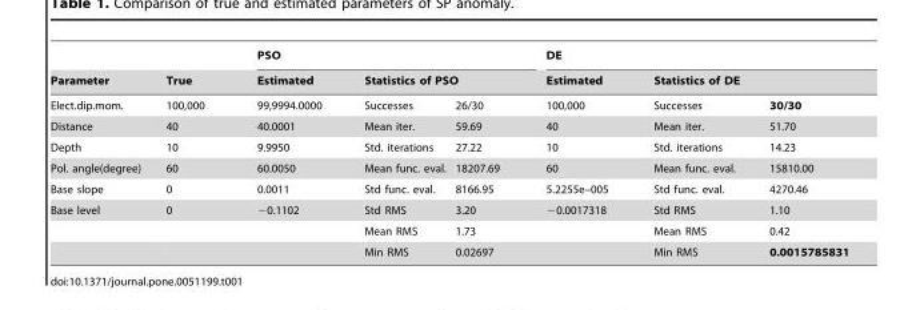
<table><thead><tr><td rowspan="3">Parameter Elect.dip.mom.</td><td rowspan="3">True 100,000</td><td colspan="3">PSO</td><td colspan="3">DE</td></tr><tr><td rowspan="2">Estimated 99,9994.0000</td><td colspan="2">Statistics of PSO</td><td rowspan="2">Estimated 100,000</td><td colspan="2">Statistics of DE</td></tr><tr><td>Successes</td><td>26/30</td><td>Successes</td><td>30/30</td></tr></thead><tbody><tr><td>Distance</td><td>40</td><td>40.0001</td><td>Mean iter.</td><td>59.69</td><td>40</td><td>Mean iter.</td><td>51.70</td></tr><tr><td>Depth</td><td>10</td><td>9.9950</td><td>Std. iterations</td><td>27.22</td><td>10</td><td>Std. iterations</td><td>14.23</td></tr><tr><td>Pol. angle(degree)</td><td>60</td><td>60.0050</td><td>Mean func. eval.</td><td>18207.69</td><td>60</td><td>Mean func. eval.</td><td>15810.00</td></tr><tr><td>Base slope</td><td>0</td><td>0.0011</td><td>Std func. eval.</td><td>8166.95</td><td>5.2255e–005</td><td>Std func. eval.</td><td>4270.46</td></tr><tr><td rowspan="3">Base level</td><td>0</td><td>−0.1102</td><td>Std RMS</td><td>3.20</td><td>−0.0017318</td><td>Std RMS</td><td>1.10</td></tr><tr><td></td><td></td><td>Mean RMS</td><td>1.73</td><td></td><td>Mean RMS</td><td>0.42</td></tr><tr><td></td><td></td><td>Min RMS</td><td>0.02697</td><td></td><td>Min RMS</td><td>0.0015785831</td></tr></tbody></table>